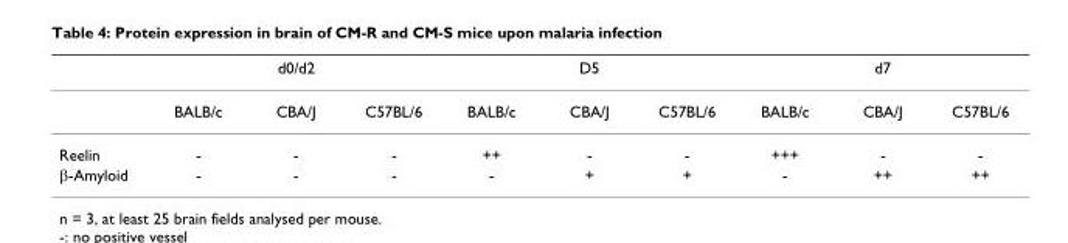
<table><thead><tr><td rowspan="2"></td><td colspan="3">d0/d2</td><td colspan="3">D5</td><td colspan="3">d7</td></tr><tr><td>BALB/c</td><td>CBA/J</td><td>C57BL/6</td><td>BALB/c</td><td>CBA/J</td><td>C57BL/6</td><td>BALB/c</td><td>CBA/J</td><td>C57BL/6</td></tr></thead><tbody><tr><td>Reelin</td><td>-</td><td>-</td><td>-</td><td>++</td><td>-</td><td>-</td><td>+++</td><td>-</td><td>-</td></tr><tr><td>β-Amyloid</td><td>-</td><td>-</td><td>-</td><td>-</td><td>+</td><td>+</td><td>-</td><td>++</td><td>++</td></tr></tbody></table>